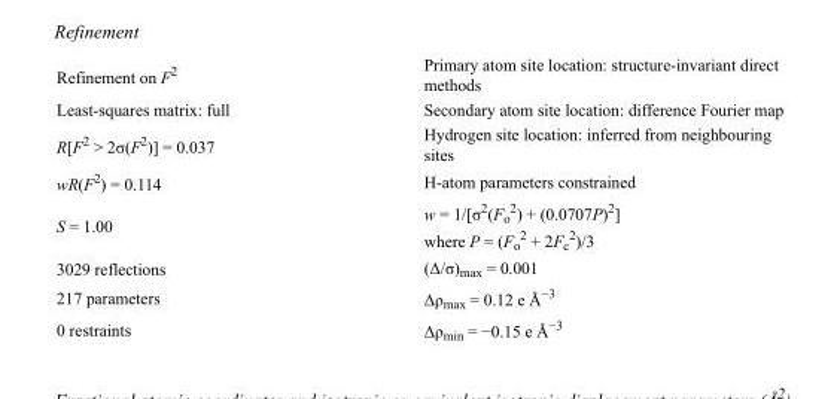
<table><tbody><tr><td>Refinement on F<sup>2</sup></td><td>Primary atom site location: structure-invariant direct methods</td></tr><tr><td>Least-squares matrix: full</td><td>Secondary atom site location: difference Fourier map</td></tr><tr><td>R[F<sup>2</sup> &gt; 2σ(F<sup>2</sup>)] = 0.037</td><td>Hydrogen site location: inferred from neighbouring sites</td></tr><tr><td>wR(F<sup>2</sup>) = 0.114</td><td>H-atom parameters constrained</td></tr><tr><td>S = 1.00</td><td>w = 1/[σ<sup>2</sup>(F<sub>o</sub> <sup>2</sup>) + (0.0707P)<sup>2</sup>] where P = (F<sub>o</sub> <sup>2</sup> + 2F<sub>c</sub> <sup>2</sup>)/3</td></tr><tr><td>3029 reflections</td><td>(Δ/σ)<sub>max</sub> = 0.001</td></tr><tr><td>217 parameters</td><td>Δρ<sub>max</sub> = 0.12 e Å<sup>−3</sup></td></tr><tr><td>0 restraints</td><td>Δρ<sub>min</sub> = −0.15 e Å<sup>−3</sup></td></tr></tbody></table>